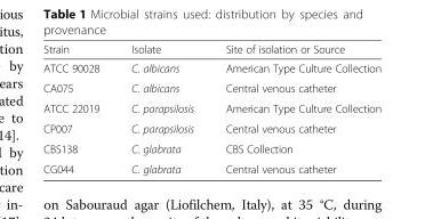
<table><thead><tr><td>Strain</td><td>Isolate</td><td>Site of isolation or Source</td></tr></thead><tbody><tr><td>ATCC 90028</td><td>C. albicans</td><td>American Type Culture Collection</td></tr><tr><td>CA075</td><td>C. albicans</td><td>Central venous catheter</td></tr><tr><td>ATCC 22019</td><td>C. parapsilosis</td><td>American Type Culture Collection</td></tr><tr><td>CP007</td><td>C. parapsilosis</td><td>Central venous catheter</td></tr><tr><td>CBS138</td><td>C. glabrata</td><td>CBS Collection</td></tr><tr><td>CG044</td><td>C. glabrata</td><td>Central venous catheter</td></tr></tbody></table>